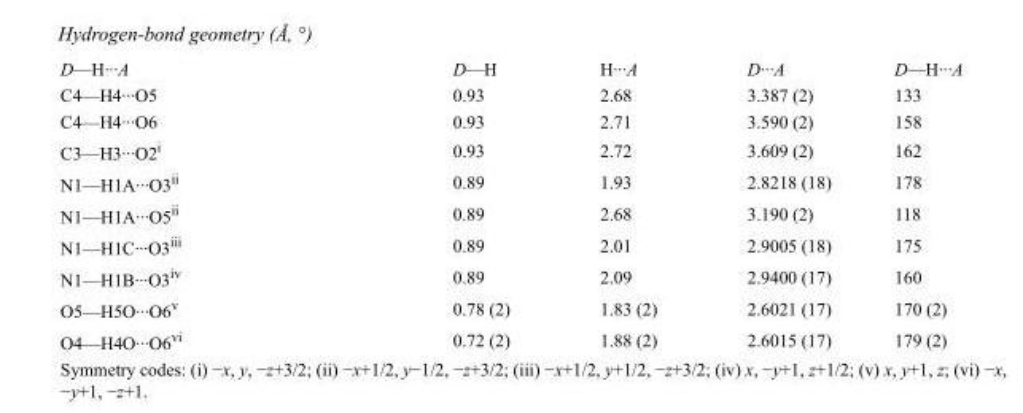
<table><tbody><tr><td>D—H···A</td><td>D—H</td><td>H···A</td><td>D···A</td><td>D—H···A</td></tr><tr><td>C4—H4···O5</td><td>0.93</td><td>2.68</td><td>3.387 (2)</td><td>133</td></tr><tr><td>C4—H4···O6</td><td>0.93</td><td>2.71</td><td>3.590 (2)</td><td>158</td></tr><tr><td>C3—H3···O2<sup>i</sup></td><td>0.93</td><td>2.72</td><td>3.609 (2)</td><td>162</td></tr><tr><td>N1—H1A···O3<sup>ii</sup></td><td>0.89</td><td>1.93</td><td>2.8218 (18)</td><td>178</td></tr><tr><td>N1—H1A···O5<sup>ii</sup></td><td>0.89</td><td>2.68</td><td>3.190 (2)</td><td>118</td></tr><tr><td>N1—H1C···O3<sup>iii</sup></td><td>0.89</td><td>2.01</td><td>2.9005 (18)</td><td>175</td></tr><tr><td>N1—H1B···O3<sup>iv</sup></td><td>0.89</td><td>2.09</td><td>2.9400 (17)</td><td>160</td></tr><tr><td>O5—H5O···O6<sup>v</sup></td><td>0.78 (2)</td><td>1.83 (2)</td><td>2.6021 (17)</td><td>170 (2)</td></tr><tr><td>O4—H4O···O6<sup>vi</sup></td><td>0.72 (2)</td><td>1.88 (2)</td><td>2.6015 (17)</td><td>179 (2)</td></tr></tbody></table>